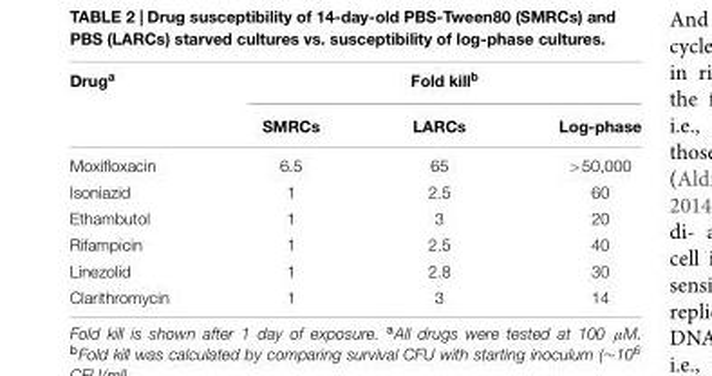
<table><thead><tr><td rowspan="2">Drug<sup>a</sup></td><td colspan="3">Fold kill<sup>b</sup></td></tr><tr><td>SMRCs</td><td>LARCs</td><td>Log-phase</td></tr></thead><tbody><tr><td>Moxifloxacin</td><td>6.5</td><td>65</td><td>&gt;50,000</td></tr><tr><td>Isoniazid</td><td>1</td><td>2.5</td><td>60</td></tr><tr><td>Ethambutol</td><td>1</td><td>3</td><td>20</td></tr><tr><td>Rifampicin</td><td>1</td><td>2.5</td><td>40</td></tr><tr><td>Linezolid</td><td>1</td><td>2.8</td><td>30</td></tr><tr><td>Clarithromycin</td><td>1</td><td>3</td><td>14</td></tr></tbody></table>